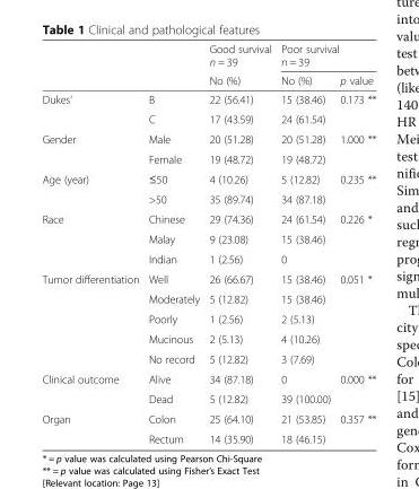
<table><thead><tr><td rowspan="2"></td><td rowspan="2"></td><td rowspan="2">Good survival n = 39 No (%)</td><td colspan="2">Poor survival n = 39</td></tr><tr><td>No (%)</td><td>p value</td></tr></thead><tbody><tr><td rowspan="2">Dukes’</td><td>B</td><td>22 (56.41)</td><td>15 (38.46)</td><td>0.173 **</td></tr><tr><td>C</td><td>17 (43.59)</td><td>24 (61.54)</td><td></td></tr><tr><td rowspan="2">Gender</td><td>Male</td><td>20 (51.28)</td><td>20 (51.28)</td><td>1.000 **</td></tr><tr><td>Female</td><td>19 (48.72)</td><td>19 (48.72)</td><td></td></tr><tr><td rowspan="2">Age (year)</td><td>≤50</td><td>4 (10.26)</td><td>5 (12.82)</td><td>0.235 **</td></tr><tr><td>&gt;50</td><td>35 (89.74)</td><td>34 (87.18)</td><td></td></tr><tr><td rowspan="3">Race</td><td>Chinese</td><td>29 (74.36)</td><td>24 (61.54)</td><td>0.226 *</td></tr><tr><td>Malay</td><td>9 (23.08)</td><td>15 (38.46)</td><td></td></tr><tr><td>Indian</td><td>1 (2.56)</td><td>0</td><td></td></tr><tr><td rowspan="5">Tumor differentiation</td><td>Well</td><td>26 (66.67)</td><td>15 (38.46)</td><td>0.051 *</td></tr><tr><td>Moderately</td><td>5 (12.82)</td><td>15 (38.46)</td><td></td></tr><tr><td>Poorly</td><td>1 (2.56)</td><td>2 (5.13)</td><td></td></tr><tr><td>Mucinous</td><td>2 (5.13)</td><td>4 (10.26)</td><td></td></tr><tr><td>No record</td><td>5 (12.82)</td><td>3 (7.69)</td><td></td></tr><tr><td rowspan="2">Clinical outcome</td><td>Alive</td><td>34 (87.18)</td><td>0</td><td>0.000 **</td></tr><tr><td>Dead</td><td>5 (12.82)</td><td>39 (100.00)</td><td></td></tr><tr><td rowspan="2">Organ</td><td>Colon</td><td>25 (64.10)</td><td>21 (53.85)</td><td>0.357 **</td></tr><tr><td>Rectum</td><td>14 (35.90)</td><td>18 (46.15)</td><td></td></tr></tbody></table>